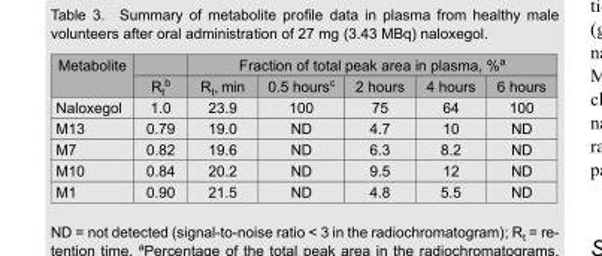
<table><thead><tr><td rowspan="2">Metabolite</td><td rowspan="2">R<sub>t</sub> <sup>b</sup></td><td colspan="5">Fraction of total peak area in plasma, %<sup>a</sup></td></tr><tr><td>R<sub>t</sub>, min</td><td>0.5 hours<sup>c</sup></td><td>2 hours</td><td>4 hours</td><td>6 hours</td></tr></thead><tbody><tr><td>Naloxegol</td><td>1.0</td><td>23.9</td><td>100</td><td>75</td><td>64</td><td>100</td></tr><tr><td>M13</td><td>0.79</td><td>19.0</td><td>ND</td><td>4.7</td><td>10</td><td>ND</td></tr><tr><td>M7</td><td>0.82</td><td>19.6</td><td>ND</td><td>6.3</td><td>8.2</td><td>ND</td></tr><tr><td>M10</td><td>0.84</td><td>20.2</td><td>ND</td><td>9.5</td><td>12</td><td>ND</td></tr><tr><td>M1</td><td>0.90</td><td>21.5</td><td>ND</td><td>4.8</td><td>5.5</td><td>ND</td></tr></tbody></table>